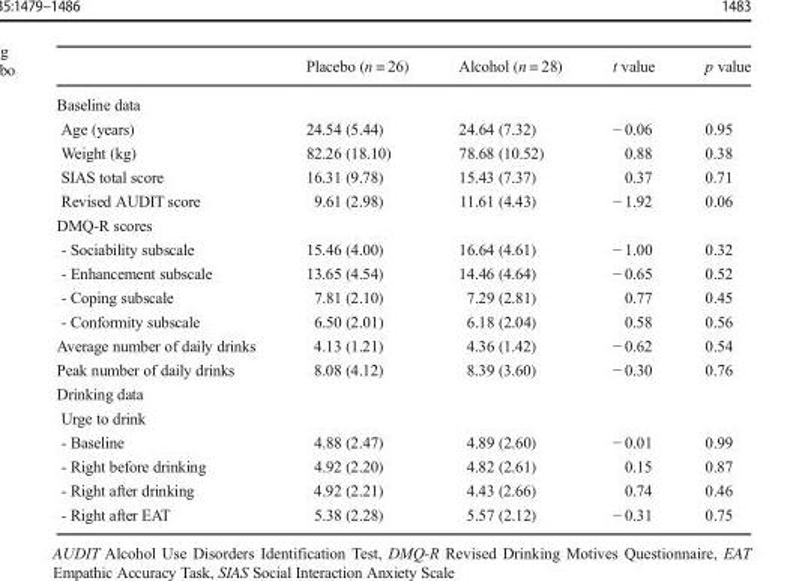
<table><thead><tr><td></td><td>Placebo (n = 26)</td><td>Alcohol (n = 28)</td><td>t value</td><td>p value</td></tr></thead><tbody><tr><td colspan="5">Baseline data</td></tr><tr><td>Age (years)</td><td>24.54 (5.44)</td><td>24.64 (7.32)</td><td>− 0.06</td><td>0.95</td></tr><tr><td>Weight (kg)</td><td>82.26 (18.10)</td><td>78.68 (10.52)</td><td>0.88</td><td>0.38</td></tr><tr><td>SIAS total score</td><td>16.31 (9.78)</td><td>15.43 (7.37)</td><td>0.37</td><td>0.71</td></tr><tr><td>Revised AUDIT score</td><td>9.61 (2.98)</td><td>11.61 (4.43)</td><td>− 1.92</td><td>0.06</td></tr><tr><td colspan="5">DMQ-R scores</td></tr><tr><td>- Sociability subscale</td><td>15.46 (4.00)</td><td>16.64 (4.61)</td><td>− 1.00</td><td>0.32</td></tr><tr><td>- Enhancement subscale</td><td>13.65 (4.54)</td><td>14.46 (4.64)</td><td>− 0.65</td><td>0.52</td></tr><tr><td>- Coping subscale</td><td>7.81 (2.10)</td><td>7.29 (2.81)</td><td>0.77</td><td>0.45</td></tr><tr><td>- Conformity subscale</td><td>6.50 (2.01)</td><td>6.18 (2.04)</td><td>0.58</td><td>0.56</td></tr><tr><td>Average number of daily drinks</td><td>4.13 (1.21)</td><td>4.36 (1.42)</td><td>− 0.62</td><td>0.54</td></tr><tr><td>Peak number of daily drinks</td><td>8.08 (4.12)</td><td>8.39 (3.60)</td><td>− 0.30</td><td>0.76</td></tr><tr><td colspan="5">Drinking data</td></tr><tr><td colspan="5">Urge to drink</td></tr><tr><td>- Baseline</td><td>4.88 (2.47)</td><td>4.89 (2.60)</td><td>− 0.01</td><td>0.99</td></tr><tr><td>- Right before drinking</td><td>4.92 (2.20)</td><td>4.82 (2.61)</td><td>0.15</td><td>0.87</td></tr><tr><td>- Right after drinking</td><td>4.92 (2.21)</td><td>4.43 (2.66)</td><td>0.74</td><td>0.46</td></tr><tr><td>- Right after EAT</td><td>5.38 (2.28)</td><td>5.57 (2.12)</td><td>− 0.31</td><td>0.75</td></tr></tbody></table>